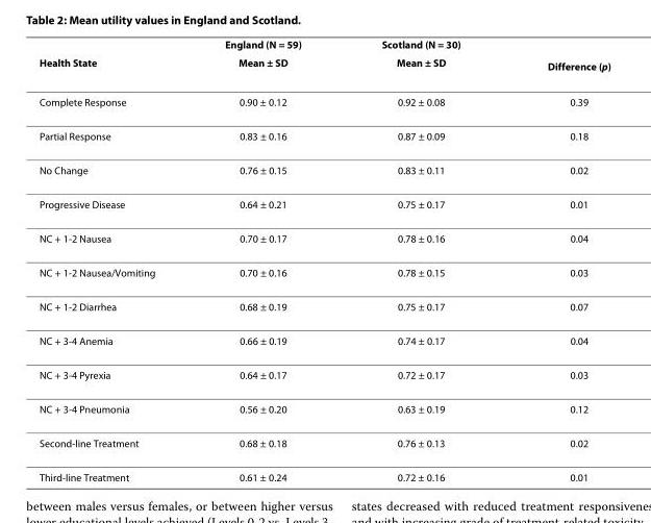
<table><thead><tr><td rowspan="2">Health State</td><td rowspan="2">England (N = 59) Mean ± SD</td><td rowspan="2">Scotland (N = 30) Mean ± SD</td><td rowspan="2">Difference (p)</td></tr><tr></tr></thead><tbody><tr><td>Complete Response</td><td>0.90 ± 0.12</td><td>0.92 ± 0.08</td><td>0.39</td></tr><tr><td>Partial Response</td><td>0.83 ± 0.16</td><td>0.87 ± 0.09</td><td>0.18</td></tr><tr><td>No Change</td><td>0.76 ± 0.15</td><td>0.83 ± 0.11</td><td>0.02</td></tr><tr><td>Progressive Disease</td><td>0.64 ± 0.21</td><td>0.75 ± 0.17</td><td>0.01</td></tr><tr><td>NC + 1-2 Nausea</td><td>0.70 ± 0.17</td><td>0.78 ± 0.16</td><td>0.04</td></tr><tr><td>NC + 1-2 Nausea/Vomiting</td><td>0.70 ± 0.16</td><td>0.78 ± 0.15</td><td>0.03</td></tr><tr><td>NC + 1-2 Diarrhea</td><td>0.68 ± 0.19</td><td>0.75 ± 0.17</td><td>0.07</td></tr><tr><td>NC + 3-4 Anemia</td><td>0.66 ± 0.19</td><td>0.74 ± 0.17</td><td>0.04</td></tr><tr><td>NC + 3-4 Pyrexia</td><td>0.64 ± 0.17</td><td>0.72 ± 0.17</td><td>0.03</td></tr><tr><td>NC + 3-4 Pneumonia</td><td>0.56 ± 0.20</td><td>0.63 ± 0.19</td><td>0.12</td></tr><tr><td>Second-line Treatment</td><td>0.68 ± 0.18</td><td>0.76 ± 0.13</td><td>0.02</td></tr><tr><td>Third-line Treatment</td><td>0.61 ± 0.24</td><td>0.72 ± 0.16</td><td>0.01</td></tr></tbody></table>